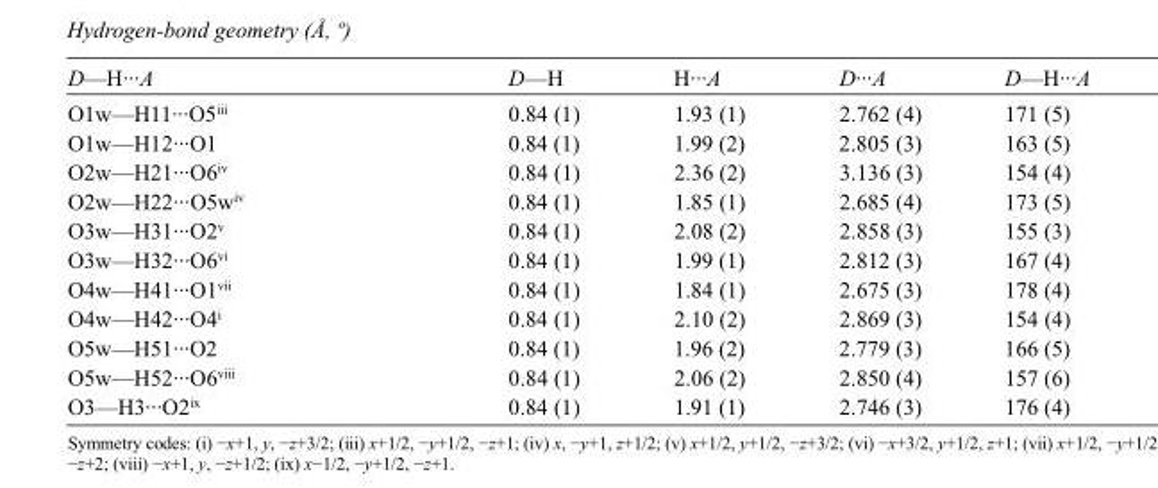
<table><tbody><tr><td>D—H···A</td><td>D—H</td><td>H···A</td><td>D···A</td><td>D—H···A</td></tr><tr><td>O1w—H11···O5<sup>iii</sup></td><td>0.84 (1)</td><td>1.93 (1)</td><td>2.762 (4)</td><td>171 (5)</td></tr><tr><td>O1w—H12···O1</td><td>0.84 (1)</td><td>1.99 (2)</td><td>2.805 (3)</td><td>163 (5)</td></tr><tr><td>O2w—H21···O6<sup>iv</sup></td><td>0.84 (1)</td><td>2.36 (2)</td><td>3.136 (3)</td><td>154 (4)</td></tr><tr><td>O2w—H22···O5w<sup>iv</sup></td><td>0.84 (1)</td><td>1.85 (1)</td><td>2.685 (4)</td><td>173 (5)</td></tr><tr><td>O3w—H31···O2<sup>v</sup></td><td>0.84 (1)</td><td>2.08 (2)</td><td>2.858 (3)</td><td>155 (3)</td></tr><tr><td>O3w—H32···O6<sup>vi</sup></td><td>0.84 (1)</td><td>1.99 (1)</td><td>2.812 (3)</td><td>167 (4)</td></tr><tr><td>O4w—H41···O1<sup>vii</sup></td><td>0.84 (1)</td><td>1.84 (1)</td><td>2.675 (3)</td><td>178 (4)</td></tr><tr><td>O4w—H42···O4<sup>i</sup></td><td>0.84 (1)</td><td>2.10 (2)</td><td>2.869 (3)</td><td>154 (4)</td></tr><tr><td>O5w—H51···O2</td><td>0.84 (1)</td><td>1.96 (2)</td><td>2.779 (3)</td><td>166 (5)</td></tr><tr><td>O5w—H52···O6<sup>viii</sup></td><td>0.84 (1)</td><td>2.06 (2)</td><td>2.850 (4)</td><td>157 (6)</td></tr><tr><td>O3—H3···O2<sup>ix</sup></td><td>0.84 (1)</td><td>1.91 (1)</td><td>2.746 (3)</td><td>176 (4)</td></tr></tbody></table>